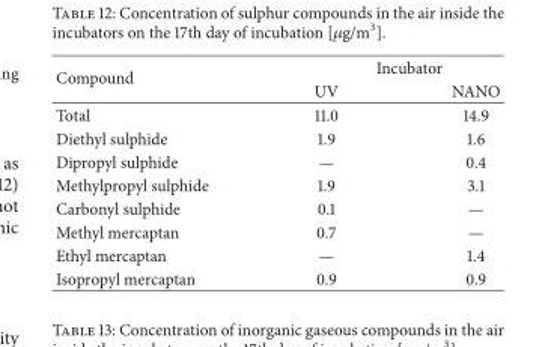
<table><thead><tr><td rowspan="2">Compound</td><td colspan="2">Incubator</td></tr><tr><td>UV</td><td>NANO</td></tr></thead><tbody><tr><td>Total</td><td>11.0</td><td>14.9</td></tr><tr><td>Diethyl sulphide</td><td>1.9</td><td>1.6</td></tr><tr><td>Dipropyl sulphide</td><td>—</td><td>0.4</td></tr><tr><td>Methylpropyl sulphide</td><td>1.9</td><td>3.1</td></tr><tr><td>Carbonyl sulphide</td><td>0.1</td><td>—</td></tr><tr><td>Methyl mercaptan</td><td>0.7</td><td>—</td></tr><tr><td>Ethyl mercaptan</td><td>—</td><td>1.4</td></tr><tr><td>Isopropyl mercaptan</td><td>0.9</td><td>0.9</td></tr></tbody></table>